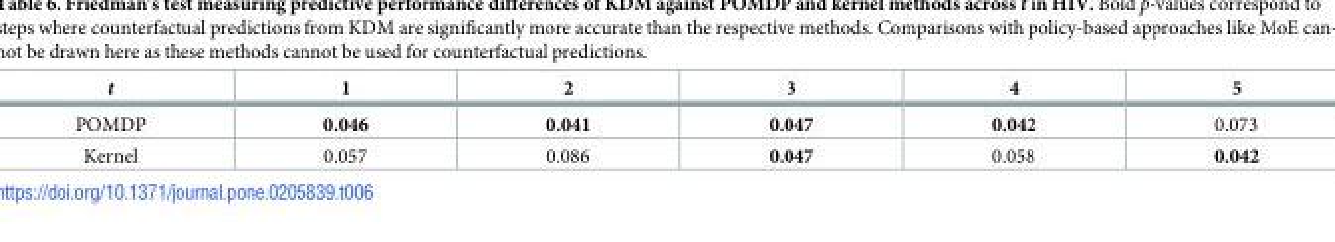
<table><thead><tr><td>t</td><td>1</td><td>2</td><td>3</td><td>4</td><td>5</td></tr></thead><tbody><tr><td>POMDP</td><td>0.046</td><td>0.041</td><td>0.047</td><td>0.042</td><td>0.073</td></tr><tr><td>Kernel</td><td>0.057</td><td>0.086</td><td>0.047</td><td>0.058</td><td>0.042</td></tr></tbody></table>